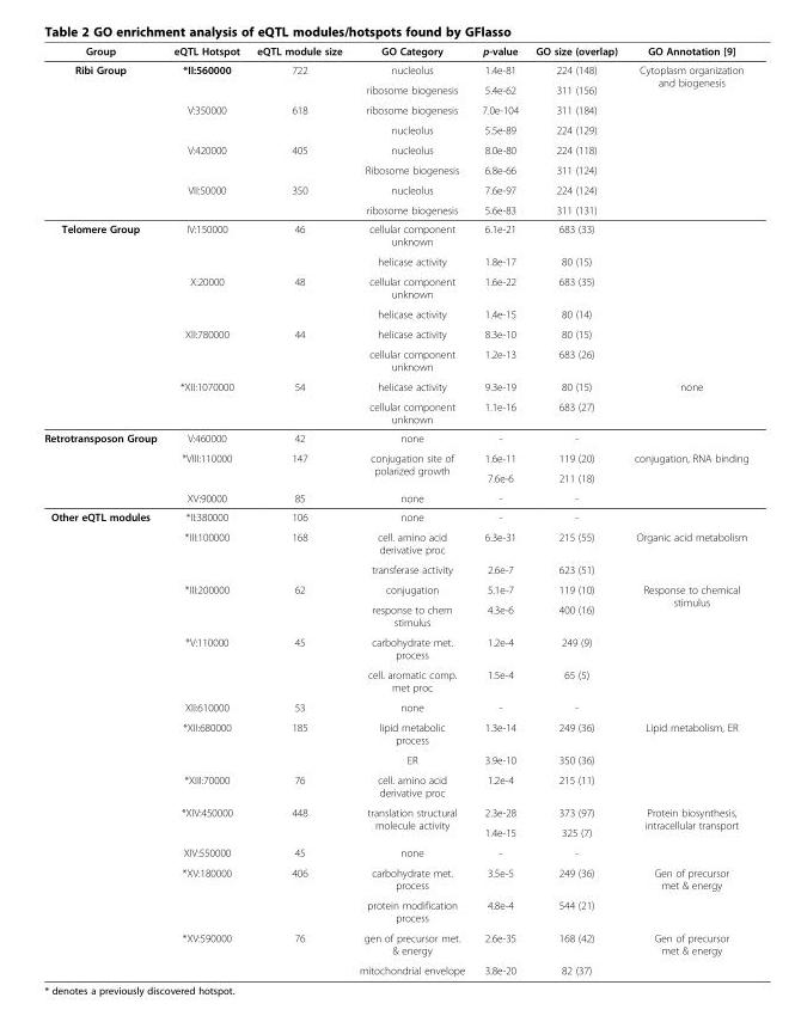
<table><thead><tr><td>Group</td><td>eQTL Hotspot</td><td>eQTL module size</td><td>GO Category</td><td>p-value</td><td>GO size (overlap)</td><td>GO Annotation [9]</td></tr></thead><tbody><tr><td rowspan="8">Ribi Group</td><td rowspan="2">*II:560000</td><td rowspan="2">722</td><td>nucleolus</td><td>1.4e-81</td><td>224 (148)</td><td rowspan="2">Cytoplasm organization and biogenesis</td></tr><tr><td>ribosome biogenesis</td><td>5.4e-62</td><td>311 (156)</td></tr><tr><td rowspan="2">V:350000</td><td rowspan="2">618</td><td>ribosome biogenesis</td><td>7.0e-104</td><td>311 (184)</td><td rowspan="2"></td></tr><tr><td>nucleolus</td><td>5.5e-89</td><td>224 (129)</td></tr><tr><td rowspan="2">V:420000</td><td rowspan="2">405</td><td>nucleolus</td><td>8.0e-80</td><td>224 (118)</td><td rowspan="2"></td></tr><tr><td>Ribosome biogenesis</td><td>6.8e-66</td><td>311 (124)</td></tr><tr><td>VII:50000</td><td>350</td><td>nucleolus</td><td>7.6e-97</td><td>224 (124)</td><td></td></tr><tr><td></td><td></td><td>ribosome biogenesis</td><td>5.6e-83</td><td>311 (131)</td><td></td></tr><tr><td rowspan="8">Telomere Group</td><td rowspan="2">IV:150000</td><td rowspan="2">46</td><td>cellular component unknown</td><td>6.1e-21</td><td>683 (33)</td><td rowspan="2"></td></tr><tr><td>helicase activity</td><td>1.8e-17</td><td>80 (15)</td></tr><tr><td rowspan="2">X:20000</td><td rowspan="2">48</td><td>cellular component unknown</td><td>1.6e-22</td><td>683 (35)</td><td rowspan="2"></td></tr><tr><td>helicase activity</td><td>1.4e-15</td><td>80 (14)</td></tr><tr><td rowspan="2">XII:780000</td><td rowspan="2">44</td><td>helicase activity</td><td>8.3e-10</td><td>80 (15)</td><td rowspan="2"></td></tr><tr><td>cellular component unknown</td><td>1.2e-13</td><td>683 (26)</td></tr><tr><td>*XII:1070000</td><td>54</td><td>helicase activity</td><td>9.3e-19</td><td>80 (15)</td><td>none</td></tr><tr><td></td><td></td><td>cellular component unknown</td><td>1.1e-16</td><td>683 (27)</td><td></td></tr><tr><td rowspan="4">Retrotransposon Group</td><td>V:460000</td><td>42</td><td>none</td><td>-</td><td>-</td><td></td></tr><tr><td rowspan="2">*VIII:110000</td><td rowspan="2">147</td><td rowspan="2">conjugation site of polarized growth</td><td>1.6e-11</td><td>119 (20)</td><td rowspan="2">conjugation, RNA binding</td></tr><tr><td>7.6e-6</td><td>211 (18)</td></tr><tr><td>XV:90000</td><td>85</td><td>none</td><td>-</td><td>-</td><td></td></tr><tr><td rowspan="18">Other eQTL modules</td><td>*II:380000</td><td>106</td><td>none</td><td>-</td><td>-</td><td></td></tr><tr><td rowspan="2">*III:100000</td><td rowspan="2">168</td><td>cell. amino acid derivative proc</td><td>6.3e-31</td><td>215 (55)</td><td rowspan="2">Organic acid metabolism</td></tr><tr><td>transferase activity</td><td>2.6e-7</td><td>623 (51)</td></tr><tr><td rowspan="2">*III:200000</td><td rowspan="2">62</td><td>conjugation</td><td>5.1e-7</td><td>119 (10)</td><td rowspan="2">Response to chemical stimulus</td></tr><tr><td>response to chem stimulus</td><td>4.3e-6</td><td>400 (16)</td></tr><tr><td rowspan="2">*V:110000</td><td rowspan="2">45</td><td>carbohydrate met. process</td><td>1.2e-4</td><td>249 (9)</td><td rowspan="2"></td></tr><tr><td>cell. aromatic comp. met proc</td><td>1.5e-4</td><td>65 (5)</td></tr><tr><td>XII:610000</td><td>53</td><td>none</td><td>-</td><td>-</td><td></td></tr><tr><td rowspan="2">*XII:680000</td><td rowspan="2">185</td><td>lipid metabolic process</td><td>1.3e-14</td><td>249 (36)</td><td rowspan="2">Lipid metabolism, ER</td></tr><tr><td>ER</td><td>3.9e-10</td><td>350 (36)</td></tr><tr><td>*XIII:70000</td><td>76</td><td>cell. amino acid derivative proc</td><td>1.2e-4</td><td>215 (11)</td><td></td></tr><tr><td rowspan="2">*XIV:450000</td><td rowspan="2">448</td><td rowspan="2">translation structural molecule activity</td><td>2.3e-28</td><td>373 (97)</td><td rowspan="2">Protein biosynthesis, intracellular transport</td></tr><tr><td>1.4e-15</td><td>325 (7)</td></tr><tr><td>XIV:550000</td><td>45</td><td>none</td><td>-</td><td>-</td><td></td></tr><tr><td rowspan="2">*XV:180000</td><td rowspan="2">406</td><td>carbohydrate met. process</td><td>3.5e-5</td><td>249 (36)</td><td rowspan="2">Gen of precursor met &amp; energy</td></tr><tr><td>protein modification process</td><td>4.8e-4</td><td>544 (21)</td></tr><tr><td>*XV:590000</td><td>76</td><td>gen of precursor met. &amp; energy</td><td>2.6e-35</td><td>168 (42)</td><td>Gen of precursor met &amp; energy</td></tr><tr><td></td><td></td><td>mitochondrial envelope</td><td>3.8e-20</td><td>82 (37)</td><td></td></tr></tbody></table>